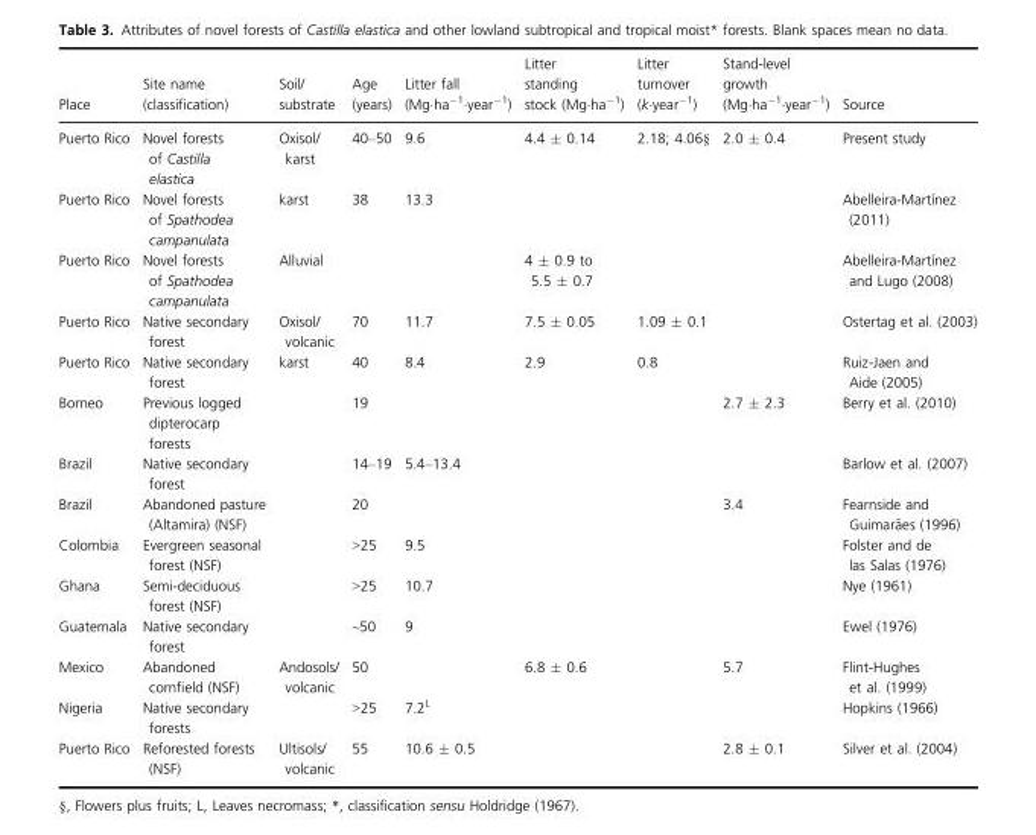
<table><thead><tr><td>Place</td><td>Site name (classification)</td><td>Soil/ substrate</td><td>Age (years)</td><td>Litter fall (Mg·ha<sup>−1</sup>·year<sup>−1</sup>)</td><td>Litter standing stock (Mg·ha<sup>−1</sup>)</td><td>Litter turnover (k·year<sup>−1</sup>)</td><td>Stand-level growth (Mg·ha<sup>−1</sup>·year<sup>−1</sup>)</td><td>Source</td></tr></thead><tbody><tr><td>Puerto Rico</td><td>Novel forests of Castilla elastica</td><td>Oxisol/ karst</td><td>40–50</td><td>9.6</td><td>4.4 ± 0.14</td><td>2.18; 4.06§</td><td>2.0 ± 0.4</td><td>Present study</td></tr><tr><td>Puerto Rico</td><td>Novel forests of Spathodea campanulata</td><td>karst</td><td>38</td><td>13.3</td><td></td><td></td><td></td><td>Abelleira-Mart�ınez (2011)</td></tr><tr><td>Puerto Rico</td><td>Novel forests of Spathodea campanulata</td><td>Alluvial</td><td></td><td></td><td>4 ± 0.9 to 5.5 ± 0.7</td><td></td><td></td><td>Abelleira-Mart�ınez and Lugo (2008)</td></tr><tr><td>Puerto Rico</td><td>Native secondary forest</td><td>Oxisol/ volcanic</td><td>70</td><td>11.7</td><td>7.5 ± 0.05</td><td>1.09 ± 0.1</td><td></td><td>Ostertag et al. (2003)</td></tr><tr><td>Puerto Rico</td><td>Native secondary forest</td><td>karst</td><td>40</td><td>8.4</td><td>2.9</td><td>0.8</td><td></td><td>Ruiz-Jaen and Aide (2005)</td></tr><tr><td>Borneo</td><td>Previous logged dipterocarp forests</td><td></td><td>19</td><td></td><td></td><td></td><td>2.7 ± 2.3</td><td>Berry et al. (2010)</td></tr><tr><td>Brazil</td><td>Native secondary forest</td><td></td><td>14–19</td><td>5.4–13.4</td><td></td><td></td><td></td><td>Barlow et al. (2007)</td></tr><tr><td>Brazil</td><td>Abandoned pasture (Altamira) (NSF)</td><td></td><td>20</td><td></td><td></td><td></td><td>3.4</td><td>Fearnside and Guimar~aes (1996)</td></tr><tr><td>Colombia</td><td>Evergreen seasonal forest (NSF)</td><td></td><td>&gt;25</td><td>9.5</td><td></td><td></td><td></td><td>Folster and de las Salas (1976)</td></tr><tr><td>Ghana</td><td>Semi-deciduous forest (NSF)</td><td></td><td>&gt;25</td><td>10.7</td><td></td><td></td><td></td><td>Nye (1961)</td></tr><tr><td>Guatemala</td><td>Native secondary forest</td><td></td><td>~50</td><td>9</td><td></td><td></td><td></td><td>Ewel (1976)</td></tr><tr><td>Mexico</td><td>Abandoned cornfield (NSF)</td><td>Andosols/ volcanic</td><td>50</td><td></td><td>6.8 ± 0.6</td><td></td><td>5.7</td><td>Flint-Hughes et al. (1999)</td></tr><tr><td>Nigeria</td><td>Native secondary forests</td><td></td><td>&gt;25</td><td>7.2<sup>L</sup></td><td></td><td></td><td></td><td>Hopkins (1966)</td></tr><tr><td>Puerto Rico</td><td>Reforested forests (NSF)</td><td>Ultisols/ volcanic</td><td>55</td><td>10.6 ± 0.5</td><td></td><td></td><td>2.8 ± 0.1</td><td>Silver et al. (2004)</td></tr></tbody></table>